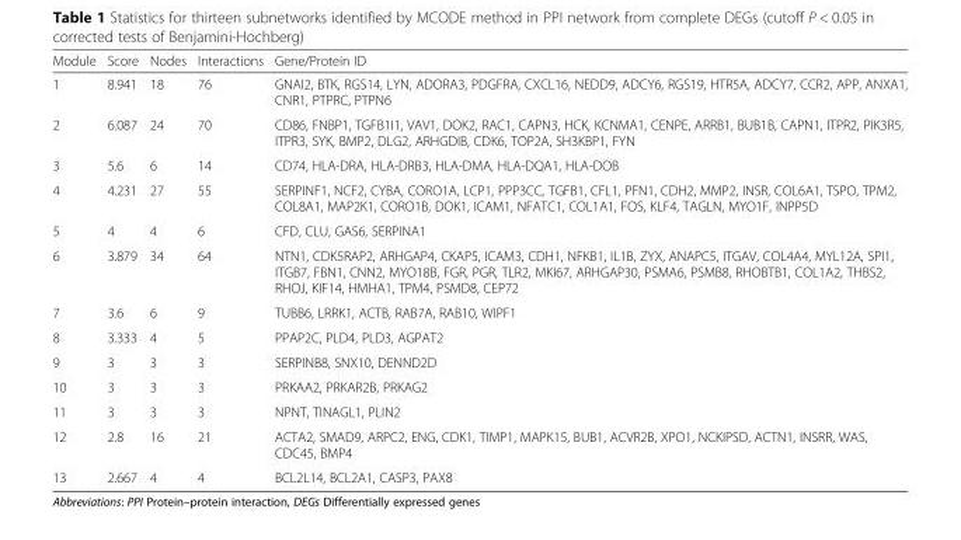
<table><thead><tr><td>Module</td><td>Score</td><td>Nodes</td><td>Interactions</td><td>Gene/Protein ID</td></tr></thead><tbody><tr><td>1</td><td>8.941</td><td>18</td><td>76</td><td>GNAI2, BTK, RGS14, LYN, ADORA3, PDGFRA, CXCL16, NEDD9, ADCY6, RGS19, HTR5A, ADCY7, CCR2, APP, ANXA1, CNR1, PTPRC, PTPN6</td></tr><tr><td>2</td><td>6.087</td><td>24</td><td>70</td><td>CD86, FNBP1, TGFB1I1, VAV1, DOK2, RAC1, CAPN3, HCK, KCNMA1, CENPE, ARRB1, BUB1B, CAPN1, ITPR2, PIK3R5, ITPR3, SYK, BMP2, DLG2, ARHGDIB, CDK6, TOP2A, SH3KBP1, FYN</td></tr><tr><td>3</td><td>5.6</td><td>6</td><td>14</td><td>CD74, HLA-DRA, HLA-DRB3, HLA-DMA, HLA-DQA1, HLA-DOB</td></tr><tr><td>4</td><td>4.231</td><td>27</td><td>55</td><td>SERPINF1, NCF2, CYBA, CORO1A, LCP1, PPP3CC, TGFB1, CFL1, PFN1, CDH2, MMP2, INSR, COL6A1, TSPO, TPM2, COL8A1, MAP2K1, CORO1B, DOK1, ICAM1, NFATC1, COL1A1, FOS, KLF4, TAGLN, MYO1F, INPP5D</td></tr><tr><td>5</td><td>4</td><td>4</td><td>6</td><td>CFD, CLU, GAS6, SERPINA1</td></tr><tr><td>6</td><td>3.879</td><td>34</td><td>64</td><td>NTN1, CDK5RAP2, ARHGAP4, CKAP5, ICAM3, CDH1, NFKB1, IL1B, ZYX, ANAPC5, ITGAV, COL4A4, MYL12A, SPI1, ITGB7, FBN1, CNN2, MYO18B, FGR, PGR, TLR2, MKI67, ARHGAP30, PSMA6, PSMB8, RHOBTB1, COL1A2, THBS2, RHOJ, KIF14, HMHA1, TPM4, PSMD8, CEP72</td></tr><tr><td>7</td><td>3.6</td><td>6</td><td>9</td><td>TUBB6, LRRK1, ACTB, RAB7A, RAB10, WIPF1</td></tr><tr><td>8</td><td>3.333</td><td>4</td><td>5</td><td>PPAP2C, PLD4, PLD3, AGPAT2</td></tr><tr><td>9</td><td>3</td><td>3</td><td>3</td><td>SERPINB8, SNX10, DENND2D</td></tr><tr><td>10</td><td>3</td><td>3</td><td>3</td><td>PRKAA2, PRKAR2B, PRKAG2</td></tr><tr><td>11</td><td>3</td><td>3</td><td>3</td><td>NPNT, TINAGL1, PLIN2</td></tr><tr><td>12</td><td>2.8</td><td>16</td><td>21</td><td>ACTA2, SMAD9, ARPC2, ENG, CDK1, TIMP1, MAPK15, BUB1, ACVR2B, XPO1, NCKIPSD, ACTN1, INSRR, WAS, CDC45, BMP4</td></tr><tr><td>13</td><td>2.667</td><td>4</td><td>4</td><td>BCL2L14, BCL2A1, CASP3, PAX8</td></tr></tbody></table>